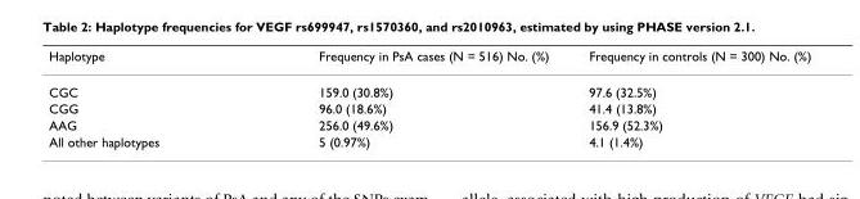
<table><thead><tr><td>Haplotype</td><td>Frequency in PsA cases (N = 516) No. (%)</td><td>Frequency in controls (N = 300) No. (%)</td></tr></thead><tbody><tr><td>CGC</td><td>159.0 (30.8%)</td><td>97.6 (32.5%)</td></tr><tr><td>CGG</td><td>96.0 (18.6%)</td><td>41.4 (13.8%)</td></tr><tr><td>AAG</td><td>256.0 (49.6%)</td><td>156.9 (52.3%)</td></tr><tr><td>All other haplotypes</td><td>5 (0.97%)</td><td>4.1 (1.4%)</td></tr></tbody></table>